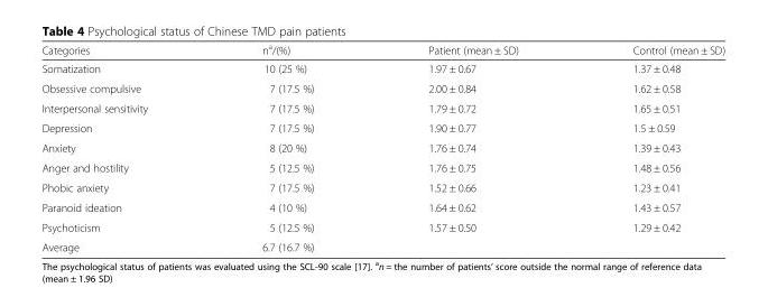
<table><thead><tr><td>Categories</td><td>n<sup>a</sup>/(%)</td><td>Patient (mean ± SD)</td><td>Control (mean ± SD)</td></tr></thead><tbody><tr><td>Somatization</td><td>10 (25 %)</td><td>1.97 ± 0.67</td><td>1.37 ± 0.48</td></tr><tr><td>Obsessive compulsive</td><td>7 (17.5 %)</td><td>2.00 ± 0.84</td><td>1.62 ± 0.58</td></tr><tr><td>Interpersonal sensitivity</td><td>7 (17.5 %)</td><td>1.79 ± 0.72</td><td>1.65 ± 0.51</td></tr><tr><td>Depression</td><td>7 (17.5 %)</td><td>1.90 ± 0.77</td><td>1.5 ± 0.59</td></tr><tr><td>Anxiety</td><td>8 (20 %)</td><td>1.76 ± 0.74</td><td>1.39 ± 0.43</td></tr><tr><td>Anger and hostility</td><td>5 (12.5 %)</td><td>1.76 ± 0.75</td><td>1.48 ± 0.56</td></tr><tr><td>Phobic anxiety</td><td>7 (17.5 %)</td><td>1.52 ± 0.66</td><td>1.23 ± 0.41</td></tr><tr><td>Paranoid ideation</td><td>4 (10 %)</td><td>1.64 ± 0.62</td><td>1.43 ± 0.57</td></tr><tr><td>Psychoticism</td><td>5 (12.5 %)</td><td>1.57 ± 0.50</td><td>1.29 ± 0.42</td></tr><tr><td>Average</td><td>6.7 (16.7 %)</td><td></td><td></td></tr></tbody></table>